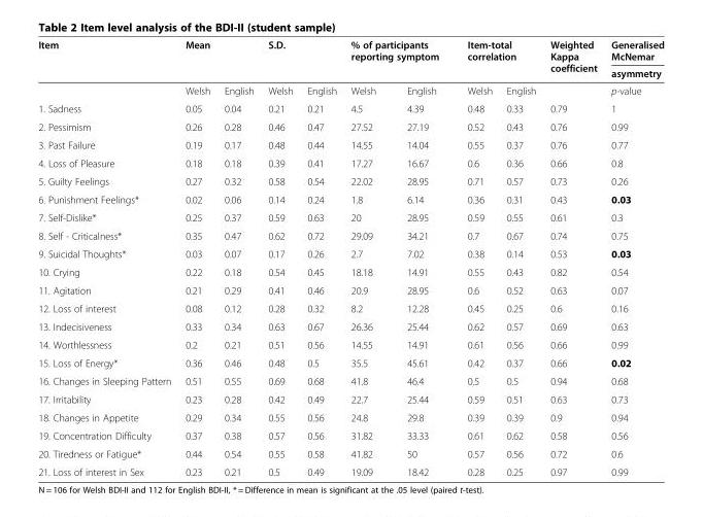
<table><thead><tr><td rowspan="3">Item</td><td rowspan="2" colspan="2">Mean</td><td rowspan="2" colspan="2">S.D.</td><td rowspan="2" colspan="2">% of participants reporting symptom</td><td rowspan="2" colspan="2">Item-total correlation</td><td rowspan="3">Weighted Kappa coefficient</td><td rowspan="3">Generalised McNemar asymmetry p-value</td></tr><tr></tr><tr><td>Welsh</td><td>English</td><td>Welsh</td><td>English</td><td>Welsh</td><td>English</td><td>Welsh</td><td>English</td></tr></thead><tbody><tr><td>1. Sadness</td><td>0.05</td><td>0.04</td><td>0.21</td><td>0.21</td><td>4.5</td><td>4.39</td><td>0.48</td><td>0.33</td><td>0.79</td><td>1</td></tr><tr><td>2. Pessimism</td><td>0.26</td><td>0.28</td><td>0.46</td><td>0.47</td><td>27.52</td><td>27.19</td><td>0.52</td><td>0.43</td><td>0.76</td><td>0.99</td></tr><tr><td>3. Past Failure</td><td>0.19</td><td>0.17</td><td>0.48</td><td>0.44</td><td>14.55</td><td>14.04</td><td>0.55</td><td>0.37</td><td>0.76</td><td>0.77</td></tr><tr><td>4. Loss of Pleasure</td><td>0.18</td><td>0.18</td><td>0.39</td><td>0.41</td><td>17.27</td><td>16.67</td><td>0.6</td><td>0.36</td><td>0.66</td><td>0.8</td></tr><tr><td>5. Guilty Feelings</td><td>0.27</td><td>0.32</td><td>0.58</td><td>0.54</td><td>22.02</td><td>28.95</td><td>0.71</td><td>0.57</td><td>0.73</td><td>0.26</td></tr><tr><td>6. Punishment Feelings*</td><td>0.02</td><td>0.06</td><td>0.14</td><td>0.24</td><td>1.8</td><td>6.14</td><td>0.36</td><td>0.31</td><td>0.43</td><td>0.03</td></tr><tr><td>7. Self-Dislike*</td><td>0.25</td><td>0.37</td><td>0.59</td><td>0.63</td><td>20</td><td>28.95</td><td>0.59</td><td>0.55</td><td>0.61</td><td>0.3</td></tr><tr><td>8. Self - Criticalness*</td><td>0.35</td><td>0.47</td><td>0.62</td><td>0.72</td><td>29.09</td><td>34.21</td><td>0.7</td><td>0.67</td><td>0.74</td><td>0.75</td></tr><tr><td>9. Suicidal Thoughts*</td><td>0.03</td><td>0.07</td><td>0.17</td><td>0.26</td><td>2.7</td><td>7.02</td><td>0.38</td><td>0.14</td><td>0.53</td><td>0.03</td></tr><tr><td>10. Crying</td><td>0.22</td><td>0.18</td><td>0.54</td><td>0.45</td><td>18.18</td><td>14.91</td><td>0.55</td><td>0.43</td><td>0.82</td><td>0.54</td></tr><tr><td>11. Agitation</td><td>0.21</td><td>0.29</td><td>0.41</td><td>0.46</td><td>20.9</td><td>28.95</td><td>0.6</td><td>0.52</td><td>0.63</td><td>0.07</td></tr><tr><td>12. Loss of interest</td><td>0.08</td><td>0.12</td><td>0.28</td><td>0.32</td><td>8.2</td><td>12.28</td><td>0.45</td><td>0.25</td><td>0.6</td><td>0.16</td></tr><tr><td>13. Indecisiveness</td><td>0.33</td><td>0.34</td><td>0.63</td><td>0.67</td><td>26.36</td><td>25.44</td><td>0.62</td><td>0.57</td><td>0.69</td><td>0.63</td></tr><tr><td>14. Worthlessness</td><td>0.2</td><td>0.21</td><td>0.51</td><td>0.56</td><td>14.55</td><td>14.91</td><td>0.61</td><td>0.56</td><td>0.66</td><td>0.99</td></tr><tr><td>15. Loss of Energy*</td><td>0.36</td><td>0.46</td><td>0.48</td><td>0.5</td><td>35.5</td><td>45.61</td><td>0.42</td><td>0.37</td><td>0.66</td><td>0.02</td></tr><tr><td>16. Changes in Sleeping Pattern</td><td>0.51</td><td>0.55</td><td>0.69</td><td>0.68</td><td>41.8</td><td>46.4</td><td>0.5</td><td>0.5</td><td>0.94</td><td>0.68</td></tr><tr><td>17. Irritability</td><td>0.23</td><td>0.28</td><td>0.42</td><td>0.49</td><td>22.7</td><td>25.44</td><td>0.59</td><td>0.51</td><td>0.63</td><td>0.73</td></tr><tr><td>18. Changes in Appetite</td><td>0.29</td><td>0.34</td><td>0.55</td><td>0.56</td><td>24.8</td><td>29.8</td><td>0.39</td><td>0.39</td><td>0.9</td><td>0.94</td></tr><tr><td>19. Concentration Difficulty</td><td>0.37</td><td>0.38</td><td>0.57</td><td>0.56</td><td>31.82</td><td>33.33</td><td>0.61</td><td>0.62</td><td>0.58</td><td>0.56</td></tr><tr><td>20. Tiredness or Fatigue*</td><td>0.44</td><td>0.54</td><td>0.55</td><td>0.58</td><td>41.82</td><td>50</td><td>0.57</td><td>0.56</td><td>0.72</td><td>0.6</td></tr><tr><td>21. Loss of interest in Sex</td><td>0.23</td><td>0.21</td><td>0.5</td><td>0.49</td><td>19.09</td><td>18.42</td><td>0.28</td><td>0.25</td><td>0.97</td><td>0.99</td></tr></tbody></table>